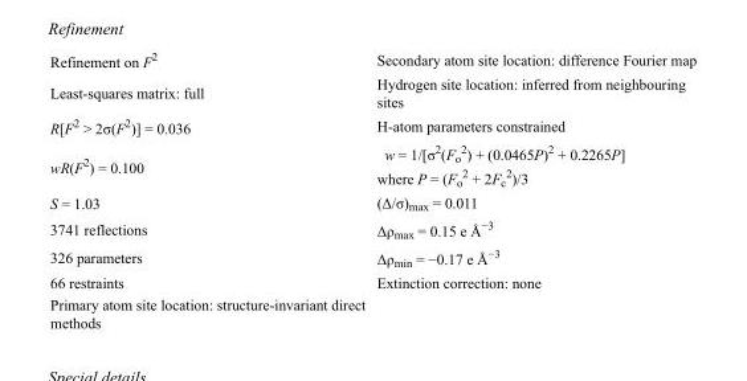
<table><tbody><tr><td>Refinement on F<sup>2</sup></td><td>Secondary atom site location: difference Fourier map</td></tr><tr><td>Least-squares matrix: full</td><td>Hydrogen site location: inferred from neighbouring sites</td></tr><tr><td>R[F<sup>2</sup> &gt; 2σ(F<sup>2</sup>)] = 0.036</td><td>H-atom parameters constrained</td></tr><tr><td>wR(F<sup>2</sup>) = 0.100</td><td>w = 1/[σ<sup>2</sup>(F<sub>o</sub> <sup>2</sup>) + (0.0465P)<sup>2</sup> + 0.2265P] where P = (F<sub>o</sub> <sup>2</sup> + 2F<sub>c</sub> <sup>2</sup>)/3</td></tr><tr><td>S = 1.03</td><td>(Δ/σ)<sub>max</sub> = 0.011</td></tr><tr><td>3741 reflections</td><td>Δρ<sub>max</sub> = 0.15 e Å<sup>−3</sup></td></tr><tr><td>326 parameters</td><td>Δρ<sub>min</sub> = −0.17 e Å<sup>−3</sup></td></tr><tr><td>66 restraints</td><td>Extinction correction: none</td></tr><tr><td>Primary atom site location: structure-invariant direct methods</td><td></td></tr></tbody></table>